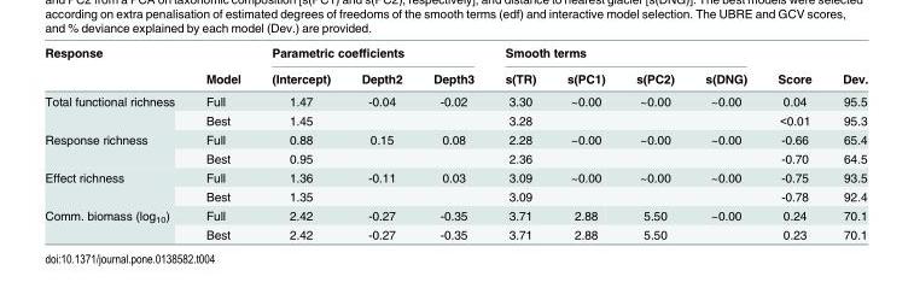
<table><thead><tr><td rowspan="2">Response</td><td rowspan="2">Model</td><td colspan="3">Parametric coefficients</td><td colspan="4">Smooth terms</td><td rowspan="2">Score</td><td rowspan="2">Dev.</td></tr><tr><td>(Intercept)</td><td>Depth2</td><td>Depth3</td><td>s(TR)</td><td>s(PC1)</td><td>s(PC2)</td><td>s(DNG)</td></tr></thead><tbody><tr><td rowspan="2">Total functional richness</td><td>Full</td><td>1.47</td><td>-0.04</td><td>-0.02</td><td>3.30</td><td>~0.00</td><td>~0.00</td><td>~0.00</td><td>0.04</td><td>95.5</td></tr><tr><td>Best</td><td>1.45</td><td></td><td></td><td>3.28</td><td></td><td></td><td></td><td>&lt;0.01</td><td>95.3</td></tr><tr><td rowspan="2">Response richness</td><td>Full</td><td>0.88</td><td>0.15</td><td>0.08</td><td>2.28</td><td>~0.00</td><td>~0.00</td><td>~0.00</td><td>-0.66</td><td>65.4</td></tr><tr><td>Best</td><td>0.95</td><td></td><td></td><td>2.36</td><td></td><td></td><td></td><td>-0.70</td><td>64.5</td></tr><tr><td rowspan="2">Effect richness</td><td>Full</td><td>1.36</td><td>-0.11</td><td>0.03</td><td>3.09</td><td>~0.00</td><td>~0.00</td><td>~0.00</td><td>-0.75</td><td>93.5</td></tr><tr><td>Best</td><td>1.35</td><td></td><td></td><td>3.09</td><td></td><td></td><td></td><td>-0.78</td><td>92.4</td></tr><tr><td rowspan="2">Comm. biomass (log<sub>10</sub>)</td><td>Full</td><td>2.42</td><td>-0.27</td><td>-0.35</td><td>3.71</td><td>2.88</td><td>5.50</td><td>~0.00</td><td>0.24</td><td>70.1</td></tr><tr><td>Best</td><td>2.42</td><td>-0.27</td><td>-0.35</td><td>3.71</td><td>2.88</td><td>5.50</td><td></td><td>0.23</td><td>70.1</td></tr></tbody></table>